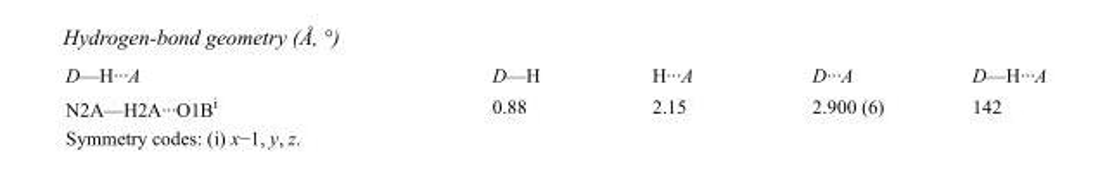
<table><tbody><tr><td>D—H···A</td><td>D—H</td><td>H···A</td><td>D···A</td><td>D—H···A</td></tr><tr><td>N2A—H2A···O1B<sup>i</sup></td><td>0.88</td><td>2.15</td><td>2.900 (6)</td><td>142</td></tr></tbody></table>